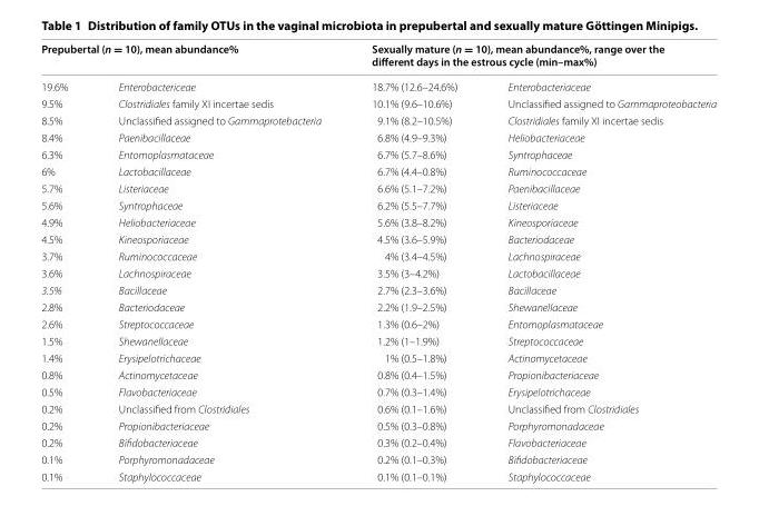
<table><thead><tr><td colspan="2">Prepubertal (n = 10), mean abundance%</td><td colspan="2">Sexually mature (n = 10), mean abundance%, range over the different days in the estrous cycle (min–max%)</td></tr><tr><td>19.6%</td><td>Enterobactericeae</td><td>18.7% (12.6–24.6%)</td><td>Enterobacteriaceae</td></tr></thead><tbody><tr><td>9.5%</td><td>Clostridiales family XI incertae sedis</td><td>10.1% (9.6–10.6%)</td><td>Unclassified assigned to Gammaproteobacteria</td></tr><tr><td>8.5%</td><td>Unclassified assigned to Gammaprotebacteria</td><td>9.1% (8.2–10.5%)</td><td>Clostridiales family XI incertae sedis</td></tr><tr><td>8.4%</td><td>Paenibacillaceae</td><td>6.8% (4.9–9.3%)</td><td>Heliobacteriaceae</td></tr><tr><td>6.3%</td><td>Entomoplasmataceae</td><td>6.7% (5.7–8.6%)</td><td>Syntrophaceae</td></tr><tr><td>6%</td><td>Lactobacillaceae</td><td>6.7% (4.4–0.8%)</td><td>Ruminococcaceae</td></tr><tr><td>5.7%</td><td>Listeriaceae</td><td>6.6% (5.1–7.2%)</td><td>Paenibacillaceae</td></tr><tr><td>5.6%</td><td>Syntrophaceae</td><td>6.2% (5.5–7.7%)</td><td>Listeriaceae</td></tr><tr><td>4.9%</td><td>Heliobacteriaceae</td><td>5.6% (3.8–8.2%)</td><td>Kineosporiaceae</td></tr><tr><td>4.5%</td><td>Kineosporiaceae</td><td>4.5% (3.6–5.9%)</td><td>Bacteriodaceae</td></tr><tr><td>3.7%</td><td>Ruminococcaceae</td><td>4% (3.4–4.5%)</td><td>Lachnospiraceae</td></tr><tr><td>3.6%</td><td>Lachnospiraceae</td><td>3.5% (3–4.2%)</td><td>Lactobacillaceae</td></tr><tr><td>3.5%</td><td>Bacillaceae</td><td>2.7% (2.3–3.6%)</td><td>Bacillaceae</td></tr><tr><td>2.8%</td><td>Bacteriodaceae</td><td>2.2% (1.9–2.5%)</td><td>Shewanellaceae</td></tr><tr><td>2.6%</td><td>Streptococcaceae</td><td>1.3% (0.6–2%)</td><td>Entomoplasmataceae</td></tr><tr><td>1.5%</td><td>Shewanellaceae</td><td>1.2% (1–1.9%)</td><td>Streptococcaceae</td></tr><tr><td>1.4%</td><td>Erysipelotrichaceae</td><td>1% (0.5–1.8%)</td><td>Actinomycetaceae</td></tr><tr><td>0.8%</td><td>Actinomycetaceae</td><td>0.8% (0.4–1.5%)</td><td>Propionibacteriaceae</td></tr><tr><td>0.5%</td><td>Flavobacteriaceae</td><td>0.7% (0.3–1.4%)</td><td>Erysipelotrichaceae</td></tr><tr><td>0.2%</td><td>Unclassified from Clostridiales</td><td>0.6% (0.1–1.6%)</td><td>Unclassified from Clostridiales</td></tr><tr><td>0.2%</td><td>Propionibacteriaceae</td><td>0.5% (0.3–0.8%)</td><td>Porphyromonadaceae</td></tr><tr><td>0.2%</td><td>Bifidobacteriaceae</td><td>0.3% (0.2–0.4%)</td><td>Flavobacteriaceae</td></tr><tr><td>0.1%</td><td>Porphyromonadaceae</td><td>0.2% (0.1–0.3%)</td><td>Bifidobacteriaceae</td></tr><tr><td>0.1%</td><td>Staphylococcaceae</td><td>0.1% (0.1–0.1%)</td><td>Staphylococcaceae</td></tr></tbody></table>